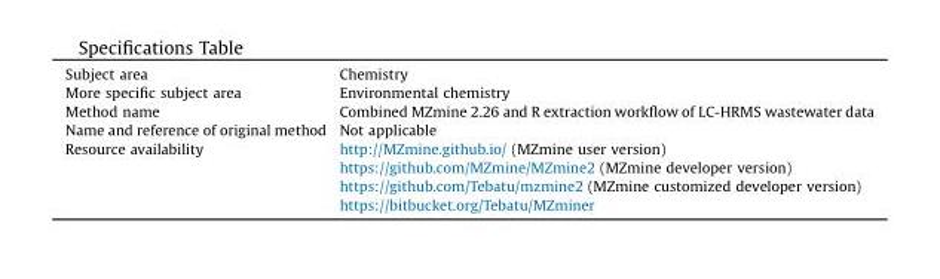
<table><tbody><tr><td>Subject area</td><td>Chemistry</td></tr><tr><td>More specific subject area</td><td>Environmental chemistry</td></tr><tr><td>Method name</td><td>Combined MZmine 2.26 and R extraction workflow of LC-HRMS wastewater data</td></tr><tr><td>Name and reference of original method</td><td>Not applicable</td></tr><tr><td rowspan="4">Resource availability</td><td>http://MZmine.github.io/ (MZmine user version)</td></tr><tr><td>https://github.com/MZmine/MZmine2 (MZmine developer version)</td></tr><tr><td>https://github.com/Tebatu/mzmine2 (MZmine customized developer version)</td></tr><tr><td>https://bitbucket.org/Tebatu/MZminer</td></tr></tbody></table>